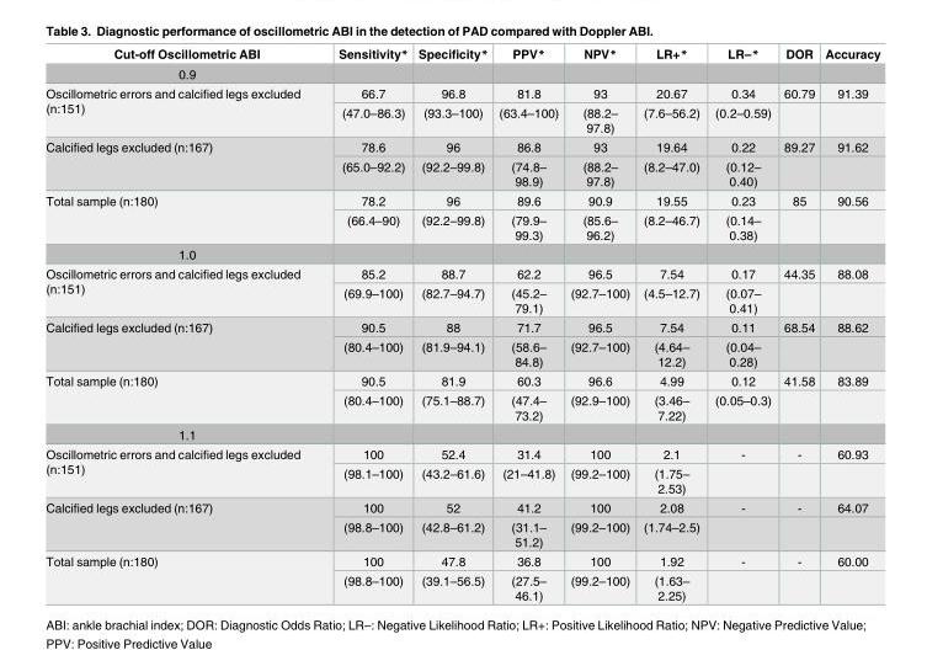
<table><thead><tr><td>Cut-off Oscillometric ABI</td><td>Sensitivity*</td><td>Specificity*</td><td>PPV*</td><td>NPV*</td><td>LR+*</td><td>LR–*</td><td>DOR</td><td>Accuracy</td></tr></thead><tbody><tr><td colspan="9">0.9</td></tr><tr><td rowspan="2">Oscillometric errors and calcified legs excluded (n:151)</td><td>66.7</td><td>96.8</td><td>81.8</td><td>93</td><td>20.67</td><td>0.34</td><td>60.79</td><td>91.39</td></tr><tr><td>(47.0–86.3)</td><td>(93.3–100)</td><td>(63.4–100)</td><td>(88.2– 97.8)</td><td>(7.6–56.2)</td><td>(0.2–0.59)</td><td></td><td></td></tr><tr><td rowspan="2">Calcified legs excluded (n:167)</td><td>78.6</td><td>96</td><td>86.8</td><td>93</td><td>19.64</td><td>0.22</td><td>89.27</td><td>91.62</td></tr><tr><td>(65.0–92.2)</td><td>(92.2–99.8)</td><td>(74.8– 98.9)</td><td>(88.2– 97.8)</td><td>(8.2–47.0)</td><td>(0.12– 0.40)</td><td></td><td></td></tr><tr><td rowspan="2">Total sample (n:180)</td><td>78.2</td><td>96</td><td>89.6</td><td>90.9</td><td>19.55</td><td>0.23</td><td>85</td><td>90.56</td></tr><tr><td>(66.4–90)</td><td>(92.2–99.8)</td><td>(79.9– 99.3)</td><td>(85.6– 96.2)</td><td>(8.2–46.7)</td><td>(0.14– 0.38)</td><td></td><td></td></tr><tr><td colspan="9">1.0</td></tr><tr><td rowspan="2">Oscillometric errors and calcified legs excluded (n:151)</td><td>85.2</td><td>88.7</td><td>62.2</td><td>96.5</td><td>7.54</td><td>0.17</td><td>44.35</td><td>88.08</td></tr><tr><td>(69.9–100)</td><td>(82.7–94.7)</td><td>(45.2– 79.1)</td><td>(92.7–100)</td><td>(4.5–12.7)</td><td>(0.07– 0.41)</td><td></td><td></td></tr><tr><td rowspan="2">Calcified legs excluded (n:167)</td><td>90.5</td><td>88</td><td>71.7</td><td>96.5</td><td>7.54</td><td>0.11</td><td>68.54</td><td>88.62</td></tr><tr><td>(80.4–100)</td><td>(81.9–94.1)</td><td>(58.6– 84.8)</td><td>(92.7–100)</td><td>(4.64– 12.2)</td><td>(0.04– 0.28)</td><td></td><td></td></tr><tr><td rowspan="2">Total sample (n:180)</td><td>90.5</td><td>81.9</td><td>60.3</td><td>96.6</td><td>4.99</td><td>0.12</td><td>41.58</td><td>83.89</td></tr><tr><td>(80.4–100)</td><td>(75.1–88.7)</td><td>(47.4– 73.2)</td><td>(92.9–100)</td><td>(3.46– 7.22)</td><td>(0.05–0.3)</td><td></td><td></td></tr><tr><td colspan="9">1.1</td></tr><tr><td rowspan="2">Oscillometric errors and calcified legs excluded (n:151)</td><td>100</td><td>52.4</td><td>31.4</td><td>100</td><td>2.1</td><td>-</td><td>-</td><td>60.93</td></tr><tr><td>(98.1–100)</td><td>(43.2–61.6)</td><td>(21–41.8)</td><td>(99.2–100)</td><td>(1.75– 2.53)</td><td></td><td></td><td></td></tr><tr><td rowspan="2">Calcified legs excluded (n:167)</td><td>100</td><td>52</td><td>41.2</td><td>100</td><td>2.08</td><td>-</td><td>-</td><td>64.07</td></tr><tr><td>(98.8–100)</td><td>(42.8–61.2)</td><td>(31.1– 51.2)</td><td>(99.2–100)</td><td>(1.74–2.5)</td><td></td><td></td><td></td></tr><tr><td rowspan="2">Total sample (n:180)</td><td>100</td><td>47.8</td><td>36.8</td><td>100</td><td>1.92</td><td>-</td><td>-</td><td>60.00</td></tr><tr><td>(98.8–100)</td><td>(39.1–56.5)</td><td>(27.5– 46.1)</td><td>(99.2–100)</td><td>(1.63– 2.25)</td><td></td><td></td><td></td></tr></tbody></table>